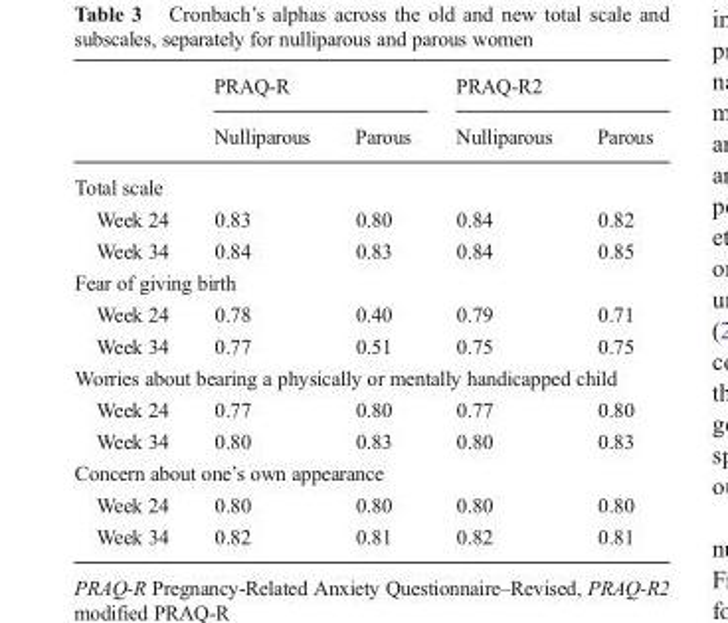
<table><thead><tr><td rowspan="2"></td><td colspan="2">PRAQ-R</td><td colspan="2">PRAQ-R2</td></tr><tr><td>Nulliparous</td><td>Parous</td><td>Nulliparous</td><td>Parous</td></tr></thead><tbody><tr><td colspan="5">Total scale</td></tr><tr><td>Week 24</td><td>0.83</td><td>0.80</td><td>0.84</td><td>0.82</td></tr><tr><td>Week 34</td><td>0.84</td><td>0.83</td><td>0.84</td><td>0.85</td></tr><tr><td colspan="5">Fear of giving birth</td></tr><tr><td>Week 24</td><td>0.78</td><td>0.40</td><td>0.79</td><td>0.71</td></tr><tr><td>Week 34</td><td>0.77</td><td>0.51</td><td>0.75</td><td>0.75</td></tr><tr><td colspan="5">Worries about bearing a physically or mentally handicapped child</td></tr><tr><td>Week 24</td><td>0.77</td><td>0.80</td><td>0.77</td><td>0.80</td></tr><tr><td>Week 34</td><td>0.80</td><td>0.83</td><td>0.80</td><td>0.83</td></tr><tr><td colspan="5">Concern about one’s own appearance</td></tr><tr><td>Week 24</td><td>0.80</td><td>0.80</td><td>0.80</td><td>0.80</td></tr><tr><td>Week 34</td><td>0.82</td><td>0.81</td><td>0.82</td><td>0.81</td></tr></tbody></table>